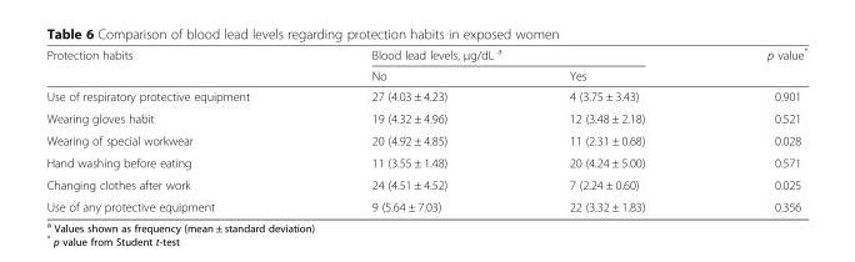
<table><thead><tr><td rowspan="2">Protection habits</td><td colspan="2">Blood lead levels, μg/dL <sup>a</sup></td><td rowspan="2">p value*</td></tr><tr><td>No</td><td>Yes</td></tr></thead><tbody><tr><td>Use of respiratory protective equipment</td><td>27 (4.03 ± 4.23)</td><td>4 (3.75 ± 3.43)</td><td>0.901</td></tr><tr><td>Wearing gloves habit</td><td>19 (4.32 ± 4.96)</td><td>12 (3.48 ± 2.18)</td><td>0.521</td></tr><tr><td>Wearing of special workwear</td><td>20 (4.92 ± 4.85)</td><td>11 (2.31 ± 0.68)</td><td>0.028</td></tr><tr><td>Hand washing before eating</td><td>11 (3.55 ± 1.48)</td><td>20 (4.24 ± 5.00)</td><td>0.571</td></tr><tr><td>Changing clothes after work</td><td>24 (4.51 ± 4.52)</td><td>7 (2.24 ± 0.60)</td><td>0.025</td></tr><tr><td>Use of any protective equipment</td><td>9 (5.64 ± 7.03)</td><td>22 (3.32 ± 1.83)</td><td>0.356</td></tr></tbody></table>